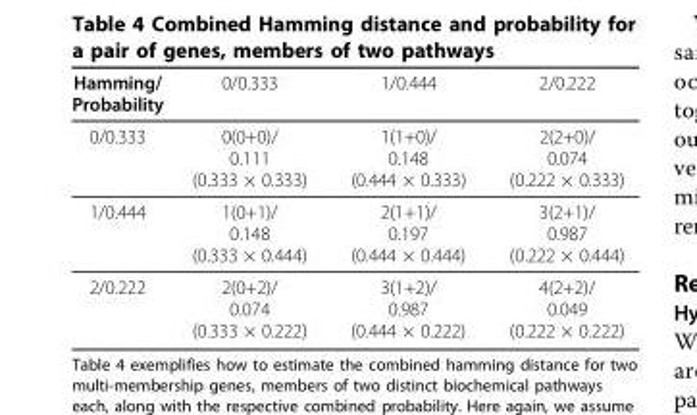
<table><thead><tr><td>Hamming/ Probability</td><td>0/0.333</td><td>1/0.444</td><td>2/0.222</td></tr></thead><tbody><tr><td>0/0.333</td><td>0(0+0)/ 0.111 (0.333 × 0.333)</td><td>1(1+0)/ 0.148 (0.444 × 0.333)</td><td>2(2+0)/ 0.074 (0.222 × 0.333)</td></tr><tr><td>1/0.444</td><td>1(0+1)/ 0.148 (0.333 × 0.444)</td><td>2(1+1)/ 0.197 (0.444 × 0.444)</td><td>3(2+1)/ 0.987 (0.222 × 0.444)</td></tr><tr><td>2/0.222</td><td>2(0+2)/ 0.074 (0.333 × 0.222)</td><td>3(1+2)/ 0.987 (0.444 × 0.222)</td><td>4(2+2)/ 0.049 (0.222 × 0.222)</td></tr></tbody></table>